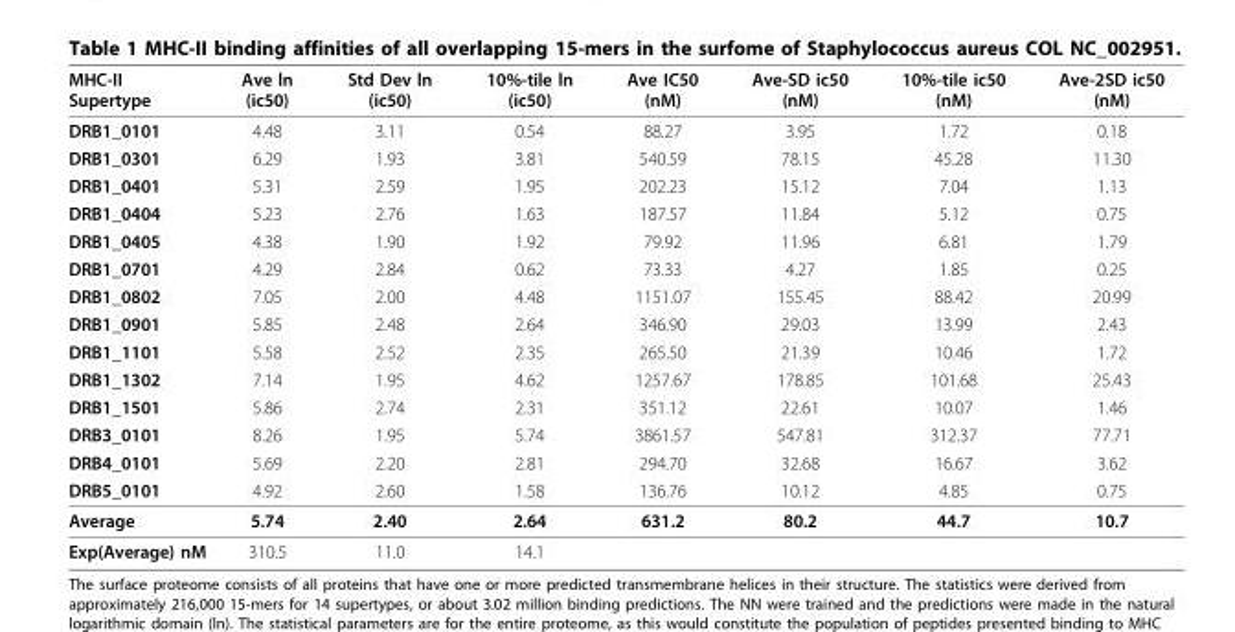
<table><thead><tr><td>MHC-II Supertype</td><td>Ave ln (ic50)</td><td>Std Dev ln (ic50)</td><td>10%-tile ln (ic50)</td><td>Ave IC50 (nM)</td><td>Ave-SD ic50 (nM)</td><td>10%-tile ic50 (nM)</td><td>Ave-2SD ic50 (nM)</td></tr></thead><tbody><tr><td>DRB1_0101</td><td>4.48</td><td>3.11</td><td>0.54</td><td>88.27</td><td>3.95</td><td>1.72</td><td>0.18</td></tr><tr><td>DRB1_0301</td><td>6.29</td><td>1.93</td><td>3.81</td><td>540.59</td><td>78.15</td><td>45.28</td><td>11.30</td></tr><tr><td>DRB1_0401</td><td>5.31</td><td>2.59</td><td>1.95</td><td>202.23</td><td>15.12</td><td>7.04</td><td>1.13</td></tr><tr><td>DRB1_0404</td><td>5.23</td><td>2.76</td><td>1.63</td><td>187.57</td><td>11.84</td><td>5.12</td><td>0.75</td></tr><tr><td>DRB1_0405</td><td>4.38</td><td>1.90</td><td>1.92</td><td>79.92</td><td>11.96</td><td>6.81</td><td>1.79</td></tr><tr><td>DRB1_0701</td><td>4.29</td><td>2.84</td><td>0.62</td><td>73.33</td><td>4.27</td><td>1.85</td><td>0.25</td></tr><tr><td>DRB1_0802</td><td>7.05</td><td>2.00</td><td>4.48</td><td>1151.07</td><td>155.45</td><td>88.42</td><td>20.99</td></tr><tr><td>DRB1_0901</td><td>5.85</td><td>2.48</td><td>2.64</td><td>346.90</td><td>29.03</td><td>13.99</td><td>2.43</td></tr><tr><td>DRB1_1101</td><td>5.58</td><td>2.52</td><td>2.35</td><td>265.50</td><td>21.39</td><td>10.46</td><td>1.72</td></tr><tr><td>DRB1_1302</td><td>7.14</td><td>1.95</td><td>4.62</td><td>1257.67</td><td>178.85</td><td>101.68</td><td>25.43</td></tr><tr><td>DRB1_1501</td><td>5.86</td><td>2.74</td><td>2.31</td><td>351.12</td><td>22.61</td><td>10.07</td><td>1.46</td></tr><tr><td>DRB3_0101</td><td>8.26</td><td>1.95</td><td>5.74</td><td>3861.57</td><td>547.81</td><td>312.37</td><td>77.71</td></tr><tr><td>DRB4_0101</td><td>5.69</td><td>2.20</td><td>2.81</td><td>294.70</td><td>32.68</td><td>16.67</td><td>3.62</td></tr><tr><td>DRB5_0101</td><td>4.92</td><td>2.60</td><td>1.58</td><td>136.76</td><td>10.12</td><td>4.85</td><td>0.75</td></tr><tr><td>Average</td><td>5.74</td><td>2.40</td><td>2.64</td><td>631.2</td><td>80.2</td><td>44.7</td><td>10.7</td></tr><tr><td>Exp(Average) nM</td><td>310.5</td><td>11.0</td><td>14.1</td><td></td><td></td><td></td><td></td></tr></tbody></table>